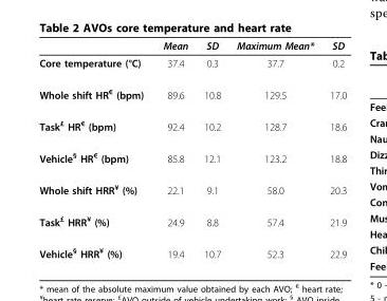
<table><thead><tr><td></td><td>Mean</td><td>SD</td><td>Maximum Mean*</td><td>SD</td></tr></thead><tbody><tr><td>Core temperature (°C)</td><td>37.4</td><td>0.3</td><td>37.7</td><td>0.2</td></tr><tr><td>Whole shift HR<sup>€</sup> (bpm)</td><td>89.6</td><td>10.8</td><td>129.5</td><td>17.0</td></tr><tr><td>Task<sup>£</sup> HR<sup>€</sup> (bpm)</td><td>92.4</td><td>10.2</td><td>128.7</td><td>18.6</td></tr><tr><td>Vehicle<sup>§</sup> HR<sup>€</sup> (bpm)</td><td>85.8</td><td>12.1</td><td>123.2</td><td>18.8</td></tr><tr><td>Whole shift HRR<sup>¥</sup> (%)</td><td>22.1</td><td>9.1</td><td>58.0</td><td>20.3</td></tr><tr><td>Task<sup>£</sup> HRR<sup>¥</sup> (%)</td><td>24.9</td><td>8.8</td><td>57.4</td><td>21.9</td></tr><tr><td>Vehicle<sup>§</sup> HRR<sup>¥</sup> (%)</td><td>19.4</td><td>10.7</td><td>52.3</td><td>22.9</td></tr></tbody></table>